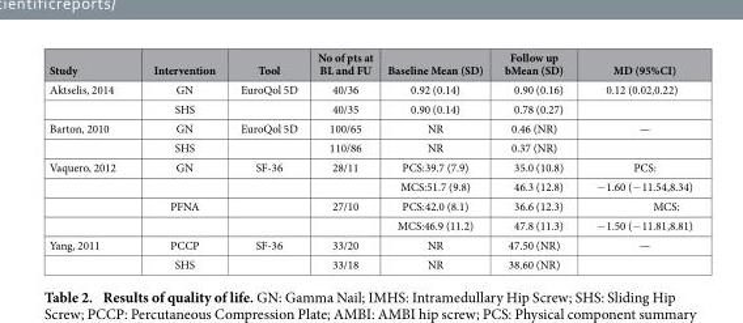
<table><thead><tr><td>Study</td><td>Intervention</td><td>Tool</td><td>No of pts at BL and FU</td><td>Baseline Mean (SD)</td><td>Follow up bMean (SD)</td><td>MD (95%CI)</td></tr></thead><tbody><tr><td rowspan="2">Aktselis, 2014</td><td>GN</td><td>EuroQol 5D</td><td>40/36</td><td>0.92 (0.14)</td><td>0.90 (0.16)</td><td>0.12 (0.02,0.22)</td></tr><tr><td>SHS</td><td></td><td>40/35</td><td>0.90 (0.14)</td><td>0.78 (0.27)</td><td></td></tr><tr><td rowspan="2">Barton, 2010</td><td>GN</td><td>EuroQol 5D</td><td>100/65</td><td>NR</td><td>0.46 (NR)</td><td>—</td></tr><tr><td>SHS</td><td></td><td>110/86</td><td>NR</td><td>0.37 (NR)</td><td></td></tr><tr><td rowspan="4">Vaquero, 2012</td><td>GN</td><td>SF-36</td><td>28/11</td><td>PCS:39.7 (7.9)</td><td>35.0 (10.8)</td><td>PCS:</td></tr><tr><td></td><td></td><td></td><td>MCS:51.7 (9.8)</td><td>46.3 (12.8)</td><td>− 1.60 (− 11.54,8.34)</td></tr><tr><td>PFNA</td><td></td><td>27/10</td><td>PCS:42.0 (8.1)</td><td>36.6 (12.3)</td><td>MCS:</td></tr><tr><td></td><td></td><td></td><td>MCS:46.9 (11.2)</td><td>47.8 (11.3)</td><td>− 1.50 (− 11.81,8.81)</td></tr><tr><td rowspan="2">Yang, 2011</td><td>PCCP</td><td>SF-36</td><td>33/20</td><td>NR</td><td>47.50 (NR)</td><td>—</td></tr><tr><td>SHS</td><td></td><td>33/18</td><td>NR</td><td>38.60 (NR)</td><td></td></tr></tbody></table>